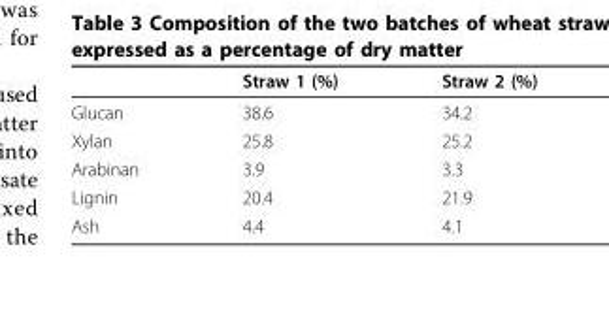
<table><thead><tr><td></td><td>Straw 1 (%)</td><td>Straw 2 (%)</td></tr></thead><tbody><tr><td>Glucan</td><td>38.6</td><td>34.2</td></tr><tr><td>Xylan</td><td>25.8</td><td>25.2</td></tr><tr><td>Arabinan</td><td>3.9</td><td>3.3</td></tr><tr><td>Lignin</td><td>20.4</td><td>21.9</td></tr><tr><td>Ash</td><td>4.4</td><td>4.1</td></tr></tbody></table>